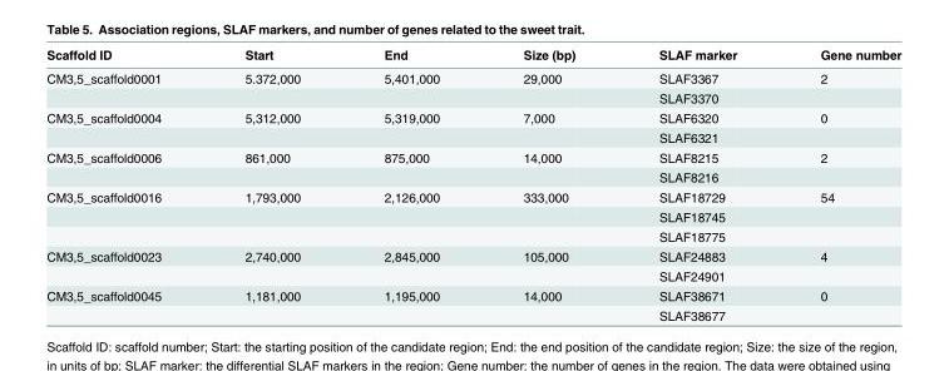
<table><thead><tr><td>Scaffold ID</td><td>Start</td><td>End</td><td>Size (bp)</td><td>SLAF marker</td><td>Gene number</td></tr></thead><tbody><tr><td rowspan="2">CM3,5_scaffold0001</td><td>5.372,000</td><td>5,401,000</td><td>29,000</td><td>SLAF3367</td><td>2</td></tr><tr><td></td><td></td><td></td><td>SLAF3370</td><td></td></tr><tr><td rowspan="2">CM3,5_scaffold0004</td><td>5,312,000</td><td>5,319,000</td><td>7,000</td><td>SLAF6320</td><td>0</td></tr><tr><td></td><td></td><td></td><td>SLAF6321</td><td></td></tr><tr><td rowspan="2">CM3,5_scaffold0006</td><td>861,000</td><td>875,000</td><td>14,000</td><td>SLAF8215</td><td>2</td></tr><tr><td></td><td></td><td></td><td>SLAF8216</td><td></td></tr><tr><td rowspan="3">CM3,5_scaffold0016</td><td>1,793,000</td><td>2,126,000</td><td>333,000</td><td>SLAF18729</td><td>54</td></tr><tr><td></td><td></td><td></td><td>SLAF18745</td><td></td></tr><tr><td></td><td></td><td></td><td>SLAF18775</td><td></td></tr><tr><td rowspan="2">CM3,5_scaffold0023</td><td>2,740,000</td><td>2,845,000</td><td>105,000</td><td>SLAF24883</td><td>4</td></tr><tr><td></td><td></td><td></td><td>SLAF24901</td><td></td></tr><tr><td rowspan="2">CM3,5_scaffold0045</td><td>1,181,000</td><td>1,195,000</td><td>14,000</td><td>SLAF38671</td><td>0</td></tr><tr><td></td><td></td><td></td><td>SLAF38677</td><td></td></tr></tbody></table>